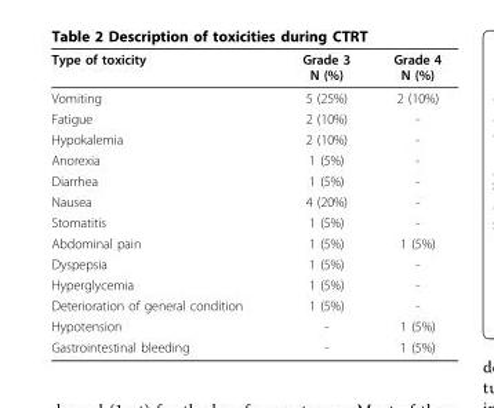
<table><thead><tr><td>Type of toxicity</td><td>Grade 3 N (%)</td><td>Grade 4 N (%)</td></tr></thead><tbody><tr><td>Vomiting</td><td>5 (25%)</td><td>2 (10%)</td></tr><tr><td>Fatigue</td><td>2 (10%)</td><td>-</td></tr><tr><td>Hypokalemia</td><td>2 (10%)</td><td>-</td></tr><tr><td>Anorexia</td><td>1 (5%)</td><td>-</td></tr><tr><td>Diarrhea</td><td>1 (5%)</td><td>-</td></tr><tr><td>Nausea</td><td>4 (20%)</td><td>-</td></tr><tr><td>Stomatitis</td><td>1 (5%)</td><td>-</td></tr><tr><td>Abdominal pain</td><td>1 (5%)</td><td>1 (5%)</td></tr><tr><td>Dyspepsia</td><td>1 (5%)</td><td>-</td></tr><tr><td>Hyperglycemia</td><td>1 (5%)</td><td>-</td></tr><tr><td>Deterioration of general condition</td><td>1 (5%)</td><td>-</td></tr><tr><td>Hypotension</td><td>-</td><td>1 (5%)</td></tr><tr><td>Gastrointestinal bleeding</td><td>-</td><td>1 (5%)</td></tr></tbody></table>